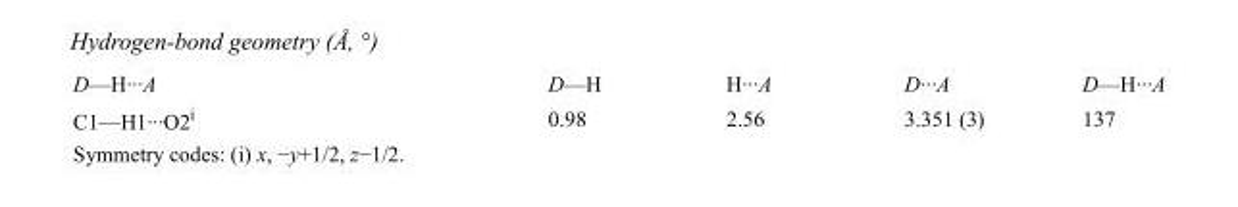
<table><tbody><tr><td>D—H···A</td><td>D—H</td><td>H···A</td><td>D···A</td><td>D—H···A</td></tr><tr><td>C1—H1···O2<sup>i</sup></td><td>0.98</td><td>2.56</td><td>3.351 (3)</td><td>137</td></tr></tbody></table>